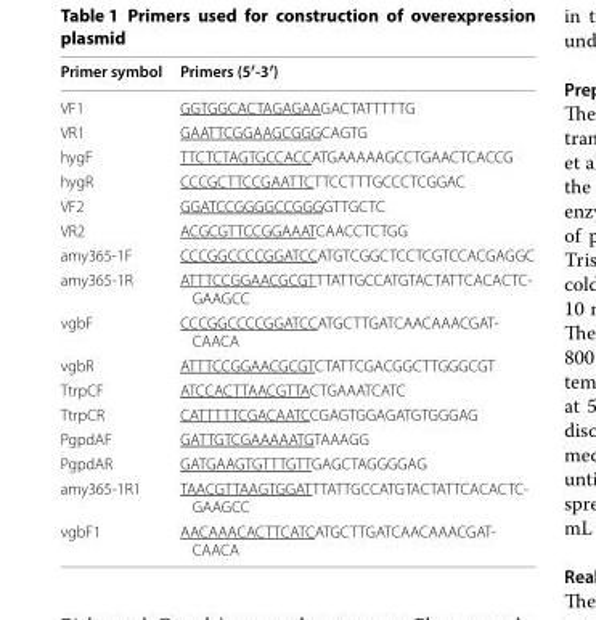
<table><thead><tr><td>Primer symbol</td><td>Primers (5′‑3′)</td></tr></thead><tbody><tr><td>VF1</td><td>GGTGGCACTAGAGAAGACTATTTTTG</td></tr><tr><td>VR1</td><td>GAATTCGGAAGCGGGCAGTG</td></tr><tr><td>hygF</td><td>TTCTCTAGTGCCACCATGAAAAAGCCTGAACTCACCG</td></tr><tr><td>hygR</td><td>CCCGCTTCCGAATTCTTCCTTTGCCCTCGGAC</td></tr><tr><td>VF2</td><td>GGATCCGGGGCCGGGGTTGCTC</td></tr><tr><td>VR2</td><td>ACGCGTTCCGGAAATCAACCTCTGG</td></tr><tr><td>amy365-1F</td><td>CCCGGCCCCGGATCCATGTCGGCTCCTCGTCCACGAGGC</td></tr><tr><td>amy365-1R</td><td>ATTTCCGGAACGCGTTTATTGCCATGTACTATTCACACTC- GAAGCC</td></tr><tr><td>vgbF</td><td>CCCGGCCCCGGATCCATGCTTGATCAACAAACGAT- CAACA</td></tr><tr><td>vgbR</td><td>ATTTCCGGAACGCGTCTATTCGACGGCTTGGGCGT</td></tr><tr><td>TtrpCF</td><td>ATCCACTTAACGTTACTGAAATCATC</td></tr><tr><td>TtrpCR</td><td>CATTTTTCGACAATCCGAGTGGAGATGTGGGAG</td></tr><tr><td>PgpdAF</td><td>GATTGTCGAAAAATGTAAAGG</td></tr><tr><td>PgpdAR</td><td>GATGAAGTGTTTGTTGAGCTAGGGGAG</td></tr><tr><td>amy365-1R1</td><td>TAACGTTAAGTGGATTTATTGCCATGTACTATTCACACTC- GAAGCC</td></tr><tr><td>vgbF1</td><td>AACAAACACTTCATCATGCTTGATCAACAAACGAT- CAACA</td></tr></tbody></table>